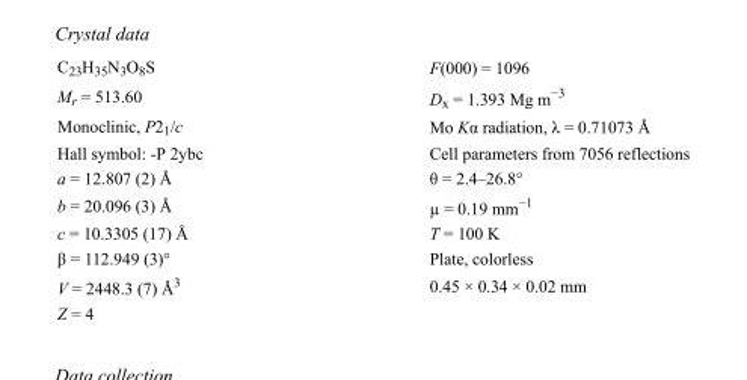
<table><tbody><tr><td>C<sub>23</sub>H<sub>35</sub>N<sub>3</sub>O<sub>8</sub>S</td><td>F(000) = 1096</td></tr><tr><td>M<sub>r</sub> = 513.60</td><td>D<sub>x</sub> = 1.393 Mg m<sup>−3</sup></td></tr><tr><td>Monoclinic, P2<sub>1</sub>/c</td><td>Mo Kα radiation, λ = 0.71073 Å</td></tr><tr><td>Hall symbol: -P 2ybc</td><td>Cell parameters from 7056 reflections</td></tr><tr><td>a = 12.807 (2) Å</td><td>θ = 2.4–26.8°</td></tr><tr><td>b = 20.096 (3) Å</td><td>µ = 0.19 mm<sup>−1</sup></td></tr><tr><td>c = 10.3305 (17) Å</td><td>T = 100 K</td></tr><tr><td>β = 112.949 (3)°</td><td>Plate, colorless</td></tr><tr><td>V = 2448.3 (7) Å<sup>3</sup></td><td>0.45 × 0.34 × 0.02 mm</td></tr><tr><td>Z = 4</td><td></td></tr></tbody></table>